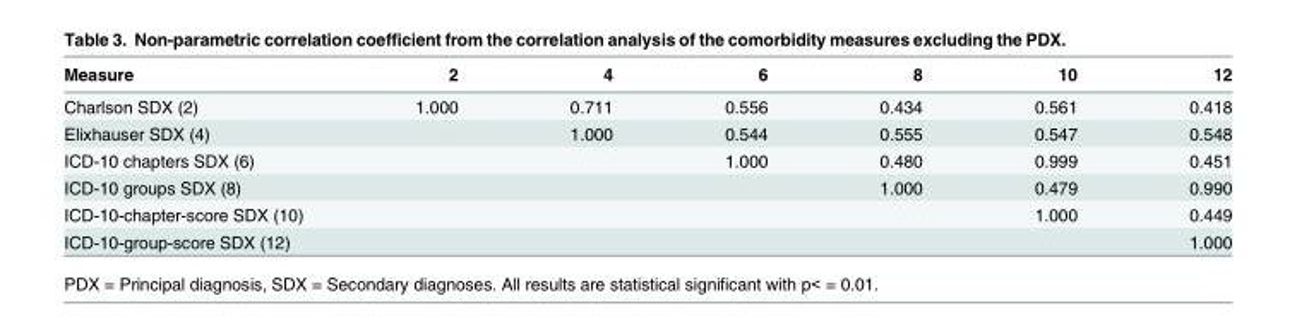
<table><thead><tr><td>Measure</td><td>2</td><td>4</td><td>6</td><td>8</td><td>10</td><td>12</td></tr></thead><tbody><tr><td>Charlson SDX (2)</td><td>1.000</td><td>0.711</td><td>0.556</td><td>0.434</td><td>0.561</td><td>0.418</td></tr><tr><td>Elixhauser SDX (4)</td><td></td><td>1.000</td><td>0.544</td><td>0.555</td><td>0.547</td><td>0.548</td></tr><tr><td>ICD-10 chapters SDX (6)</td><td></td><td></td><td>1.000</td><td>0.480</td><td>0.999</td><td>0.451</td></tr><tr><td>ICD-10 groups SDX (8)</td><td></td><td></td><td></td><td>1.000</td><td>0.479</td><td>0.990</td></tr><tr><td>ICD-10-chapter-score SDX (10)</td><td></td><td></td><td></td><td></td><td>1.000</td><td>0.449</td></tr><tr><td>ICD-10-group-score SDX (12)</td><td></td><td></td><td></td><td></td><td></td><td>1.000</td></tr></tbody></table>